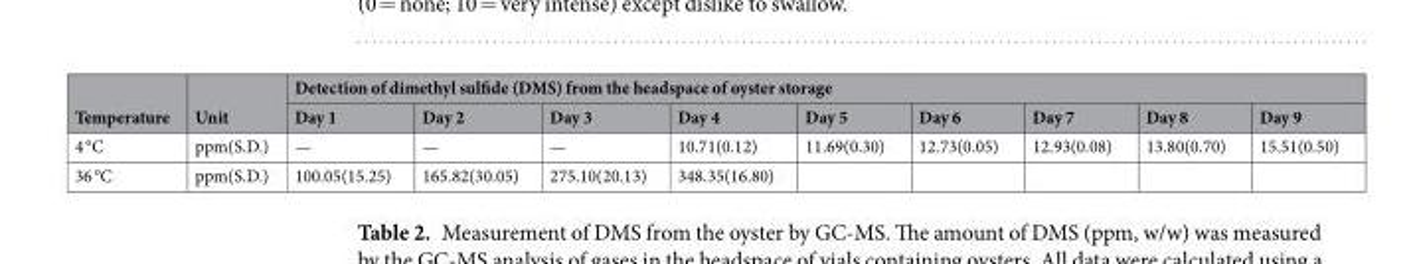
<table><thead><tr><td rowspan="2">Temperature</td><td rowspan="2">Unit</td><td colspan="9">Detection of dimethyl sulfide (DMS) from the headspace of oyster storage</td></tr><tr><td>Day 1</td><td>Day 2</td><td>Day 3</td><td>Day 4</td><td>Day 5</td><td>Day 6</td><td>Day 7</td><td>Day 8</td><td>Day 9</td></tr></thead><tbody><tr><td>4 °C</td><td>ppm(S.D.)</td><td>—</td><td>—</td><td>—</td><td>10.71(0.12)</td><td>11.69(0.30)</td><td>12.73(0.05)</td><td>12.93(0.08)</td><td>13.80(0.70)</td><td>15.51(0.50)</td></tr><tr><td>36 °C</td><td>ppm(S.D.)</td><td>100.05(15.25)</td><td>165.82(30.05)</td><td>275.10(20.13)</td><td>348.35(16.80)</td><td></td><td></td><td></td><td></td><td></td></tr></tbody></table>